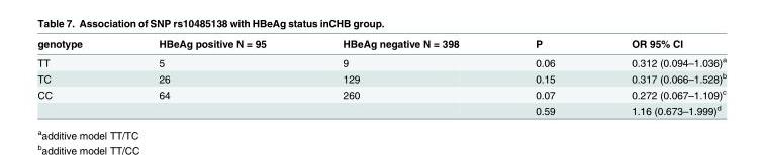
<table><thead><tr><td>genotype</td><td>HBeAg positive N = 95</td><td>HBeAg negative N = 398</td><td>P</td><td>OR 95% CI</td></tr></thead><tbody><tr><td>TT</td><td>5</td><td>9</td><td>0.06</td><td>0.312 (0.094–1.036)<sup>a</sup></td></tr><tr><td>TC</td><td>26</td><td>129</td><td>0.15</td><td>0.317 (0.066–1.528)<sup>b</sup></td></tr><tr><td rowspan="2">CC</td><td>64</td><td>260</td><td>0.07</td><td>0.272 (0.067–1.109)<sup>c</sup></td></tr><tr><td></td><td></td><td>0.59</td><td>1.16 (0.673–1.999)<sup>d</sup></td></tr></tbody></table>